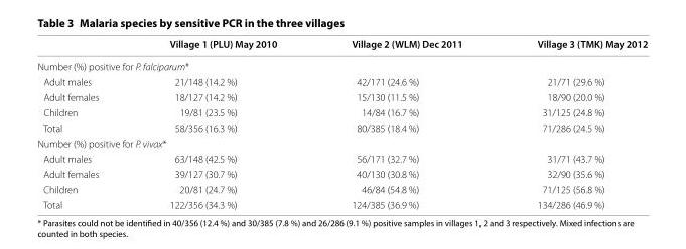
<table><thead><tr><td></td><td>Village 1 (PLU) May 2010</td><td>Village 2 (WLM) Dec 2011</td><td>Village 3 (TMK) May 2012</td></tr></thead><tbody><tr><td colspan="4">Number (%) positive for P. falciparum*</td></tr><tr><td>Adult males</td><td>21/148 (14.2 %)</td><td>42/171 (24.6 %)</td><td>21/71 (29.6 %)</td></tr><tr><td>Adult females</td><td>18/127 (14.2 %)</td><td>15/130 (11.5 %)</td><td>18/90 (20.0 %)</td></tr><tr><td>Children</td><td>19/81 (23.5 %)</td><td>14/84 (16.7 %)</td><td>31/125 (24.8 %)</td></tr><tr><td>Total</td><td>58/356 (16.3 %)</td><td>80/385 (18.4 %)</td><td>71/286 (24.5 %)</td></tr><tr><td colspan="4">Number (%) positive for P. vivax*</td></tr><tr><td>Adult males</td><td>63/148 (42.5 %)</td><td>56/171 (32.7 %)</td><td>31/71 (43.7 %)</td></tr><tr><td>Adult females</td><td>39/127 (30.7 %)</td><td>40/130 (30.8 %)</td><td>32/90 (35.6 %)</td></tr><tr><td>Children</td><td>20/81 (24.7 %)</td><td>46/84 (54.8 %)</td><td>71/125 (56.8 %)</td></tr><tr><td>Total</td><td>122/356 (34.3 %)</td><td>124/385 (36.9 %)</td><td>134/286 (46.9 %)</td></tr></tbody></table>